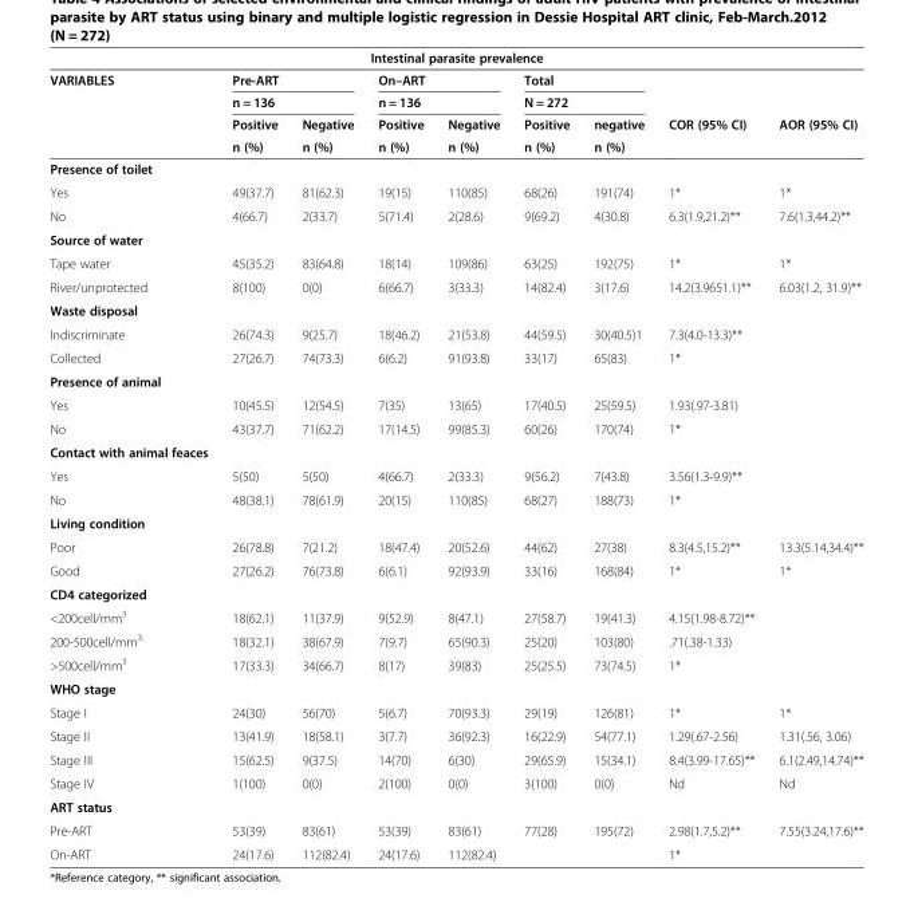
<table><thead><tr><td colspan="9">Intestinal parasite prevalence</td></tr><tr><td rowspan="4">VARIABLES</td><td rowspan="2" colspan="2">Pre-ART n = 136</td><td rowspan="2" colspan="2">On–ART n = 136</td><td rowspan="2" colspan="2">Total N = 272</td><td rowspan="4">COR (95% CI)</td><td rowspan="4">AOR (95% CI)</td></tr><tr></tr><tr><td rowspan="2">Positive n (%)</td><td rowspan="2">Negative n (%)</td><td rowspan="2">Positive n (%)</td><td rowspan="2">Negative n (%)</td><td rowspan="2">Positive n (%)</td><td rowspan="2">negative n (%)</td></tr><tr></tr></thead><tbody><tr><td colspan="9">Presence of toilet</td></tr><tr><td>Yes</td><td>49(37.7)</td><td>81(62.3)</td><td>19(15)</td><td>110(85)</td><td>68(26)</td><td>191(74)</td><td>1*</td><td>1*</td></tr><tr><td>No</td><td>4(66.7)</td><td>2(33.7)</td><td>5(71.4)</td><td>2(28.6)</td><td>9(69.2)</td><td>4(30.8)</td><td>6.3(1.9,21.2)**</td><td>7.6(1.3,44.2)**</td></tr><tr><td colspan="9">Source of water</td></tr><tr><td>Tape water</td><td>45(35.2)</td><td>83(64.8)</td><td>18(14)</td><td>109(86)</td><td>63(25)</td><td>192(75)</td><td>1*</td><td>1*</td></tr><tr><td>River/unprotected</td><td>8(100)</td><td>0(0)</td><td>6(66.7)</td><td>3(33.3)</td><td>14(82.4)</td><td>3(17.6)</td><td>14.2(3.9651.1)**</td><td>6.03(1.2, 31.9)**</td></tr><tr><td colspan="9">Waste disposal</td></tr><tr><td>Indiscriminate</td><td>26(74.3)</td><td>9(25.7)</td><td>18(46.2)</td><td>21(53.8)</td><td>44(59.5)</td><td>30(40.5)1</td><td>7.3(4.0-13.3)**</td><td></td></tr><tr><td>Collected</td><td>27(26.7)</td><td>74(73.3)</td><td>6(6.2)</td><td>91(93.8)</td><td>33(17)</td><td>65(83)</td><td>1*</td><td></td></tr><tr><td colspan="9">Presence of animal</td></tr><tr><td>Yes</td><td>10(45.5)</td><td>12(54.5)</td><td>7(35)</td><td>13(65)</td><td>17(40.5)</td><td>25(59.5)</td><td>1.93(.97-3.81)</td><td></td></tr><tr><td>No</td><td>43(37.7)</td><td>71(62.2)</td><td>17(14.5)</td><td>99(85.3)</td><td>60(26)</td><td>170(74)</td><td>1*</td><td></td></tr><tr><td colspan="9">Contact with animal feaces</td></tr><tr><td>Yes</td><td>5(50)</td><td>5(50)</td><td>4(66.7)</td><td>2(33.3)</td><td>9(56.2)</td><td>7(43.8)</td><td>3.56(1.3-9.9)**</td><td></td></tr><tr><td>No</td><td>48(38.1)</td><td>78(61.9)</td><td>20(15)</td><td>110(85)</td><td>68(27)</td><td>188(73)</td><td>1*</td><td></td></tr><tr><td colspan="9">Living condition</td></tr><tr><td>Poor</td><td>26(78.8)</td><td>7(21.2)</td><td>18(47.4)</td><td>20(52.6)</td><td>44(62)</td><td>27(38)</td><td>8.3(4.5,15.2)**</td><td>13.3(5.14,34.4)**</td></tr><tr><td>Good</td><td>27(26.2)</td><td>76(73.8)</td><td>6(6.1)</td><td>92(93.9)</td><td>33(16)</td><td>168(84)</td><td>1*</td><td>1*</td></tr><tr><td colspan="9">CD4 categorized</td></tr><tr><td>&lt;200cell/mm<sup>3</sup></td><td>18(62.1)</td><td>11(37.9)</td><td>9(52.9)</td><td>8(47.1)</td><td>27(58.7)</td><td>19(41.3)</td><td>4.15(1.98-8.72)**</td><td></td></tr><tr><td>200-500cell/mm<sup>3</sup></td><td>18(32.1)</td><td>38(67.9)</td><td>7(9.7)</td><td>65(90.3)</td><td>25(20)</td><td>103(80)</td><td>.71(.38-1.33)</td><td></td></tr><tr><td>&gt;500cell/mm<sup>3</sup></td><td>17(33.3)</td><td>34(66.7)</td><td>8(17)</td><td>39(83)</td><td>25(25.5)</td><td>73(74.5)</td><td>1*</td><td></td></tr><tr><td colspan="9">WHO stage</td></tr><tr><td>Stage I</td><td>24(30)</td><td>56(70)</td><td>5(6.7)</td><td>70(93.3)</td><td>29(19)</td><td>126(81)</td><td>1*</td><td>1*</td></tr><tr><td>Stage II</td><td>13(41.9)</td><td>18(58.1)</td><td>3(7.7)</td><td>36(92.3)</td><td>16(22.9)</td><td>54(77.1)</td><td>1.29(.67-2.56)</td><td>1.31(.56, 3.06)</td></tr><tr><td>Stage III</td><td>15(62.5)</td><td>9(37.5)</td><td>14(70)</td><td>6(30)</td><td>29(65.9)</td><td>15(34.1)</td><td>8.4(3.99-17.65)**</td><td>6.1(2.49,14.74)**</td></tr><tr><td>Stage IV</td><td>1(100)</td><td>0(0)</td><td>2(100)</td><td>0(0)</td><td>3(100)</td><td>0(0)</td><td>Nd</td><td>Nd</td></tr><tr><td colspan="9">ART status</td></tr><tr><td>Pre-ART</td><td>53(39)</td><td>83(61)</td><td>53(39)</td><td>83(61)</td><td>77(28)</td><td>195(72)</td><td>2.98(1.7,5.2)**</td><td>7.55(3.24,17.6)**</td></tr><tr><td>On-ART</td><td>24(17.6)</td><td>112(82.4)</td><td>24(17.6)</td><td>112(82.4)</td><td></td><td></td><td>1*</td><td></td></tr></tbody></table>